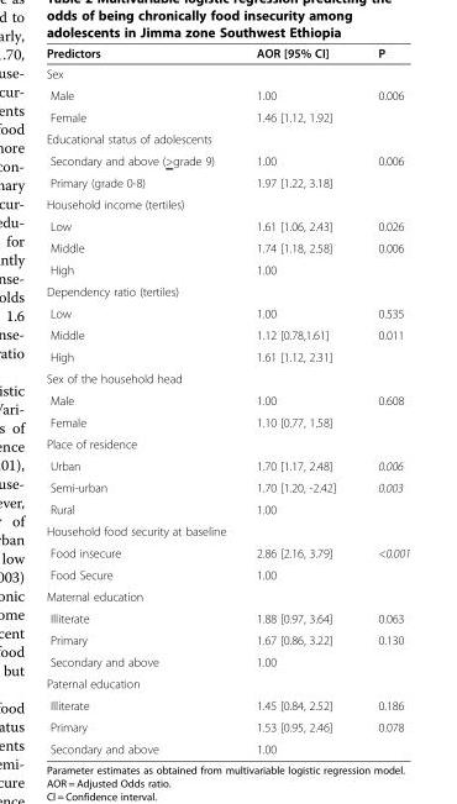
<table><thead><tr><td>Predictors</td><td>AOR [95% CI]</td><td>P</td></tr></thead><tbody><tr><td colspan="3">Sex</td></tr><tr><td>Male</td><td>1.00</td><td>0.006</td></tr><tr><td>Female</td><td>1.46 [1.12, 1.92]</td><td></td></tr><tr><td colspan="3">Educational status of adolescents</td></tr><tr><td>Secondary and above (&gt;grade 9)</td><td>1.00</td><td>0.006</td></tr><tr><td>Primary (grade 0-8)</td><td>1.97 [1.22, 3.18]</td><td></td></tr><tr><td colspan="3">Household income (tertiles)</td></tr><tr><td>Low</td><td>1.61 [1.06, 2.43]</td><td>0.026</td></tr><tr><td>Middle</td><td>1.74 [1.18, 2.58]</td><td>0.006</td></tr><tr><td>High</td><td>1.00</td><td></td></tr><tr><td colspan="3">Dependency ratio (tertiles)</td></tr><tr><td>Low</td><td>1.00</td><td>0.535</td></tr><tr><td>Middle</td><td>1.12 [0.78,1.61]</td><td>0.011</td></tr><tr><td>High</td><td>1.61 [1.12, 2.31]</td><td></td></tr><tr><td colspan="3">Sex of the household head</td></tr><tr><td>Male</td><td>1.00</td><td>0.608</td></tr><tr><td>Female</td><td>1.10 [0.77, 1.58]</td><td></td></tr><tr><td colspan="3">Place of residence</td></tr><tr><td>Urban</td><td>1.70 [1.17, 2.48]</td><td>0.006</td></tr><tr><td>Semi-urban</td><td>1.70 [1.20, -2.42]</td><td>0.003</td></tr><tr><td>Rural</td><td>1.00</td><td></td></tr><tr><td colspan="3">Household food security at baseline</td></tr><tr><td>Food insecure</td><td>2.86 [2.16, 3.79]</td><td>&lt;0.001</td></tr><tr><td>Food Secure</td><td>1.00</td><td></td></tr><tr><td colspan="3">Maternal education</td></tr><tr><td>Illiterate</td><td>1.88 [0.97, 3.64]</td><td>0.063</td></tr><tr><td>Primary</td><td>1.67 [0.86, 3.22]</td><td>0.130</td></tr><tr><td>Secondary and above</td><td>1.00</td><td></td></tr><tr><td colspan="3">Paternal education</td></tr><tr><td>Illiterate</td><td>1.45 [0.84, 2.52]</td><td>0.186</td></tr><tr><td>Primary</td><td>1.53 [0.95, 2.46]</td><td>0.078</td></tr><tr><td>Secondary and above</td><td>1.00</td><td></td></tr></tbody></table>